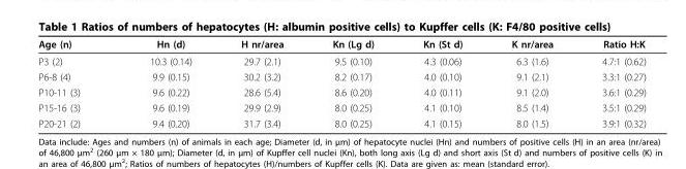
<table><thead><tr><td>Age (n)</td><td>Hn (d)</td><td>H nr/area</td><td>Kn (Lg d)</td><td>Kn (St d)</td><td>K nr/area</td><td>Ratio H:K</td></tr></thead><tbody><tr><td>P3 (2)</td><td>10.3 (0.14)</td><td>29.7 (2.1)</td><td>9.5 (0.10)</td><td>4.3 (0.06)</td><td>6.3 (1.6)</td><td>4.7:1 (0.62)</td></tr><tr><td>P6-8 (4)</td><td>9.9 (0.15)</td><td>30.2 (3.2)</td><td>8.2 (0.17)</td><td>4.0 (0.10)</td><td>9.1 (2.1)</td><td>3.3:1 (0.27)</td></tr><tr><td>P10-11 (3)</td><td>9.6 (0.22)</td><td>28.6 (5.4)</td><td>8.6 (0.20)</td><td>4.0 (0.11)</td><td>9.1 (2.0)</td><td>3.6:1 (0.29)</td></tr><tr><td>P15-16 (3)</td><td>9.6 (0.19)</td><td>29.9 (2.9)</td><td>8.0 (0.25)</td><td>4.1 (0.10)</td><td>8.5 (1.4)</td><td>3.5:1 (0.29)</td></tr><tr><td>P20-21 (2)</td><td>9.4 (0.20)</td><td>31.7 (3.4)</td><td>8.0 (0.25)</td><td>4.1 (0.15)</td><td>8.0 (1.5)</td><td>3.9:1 (0.32)</td></tr></tbody></table>